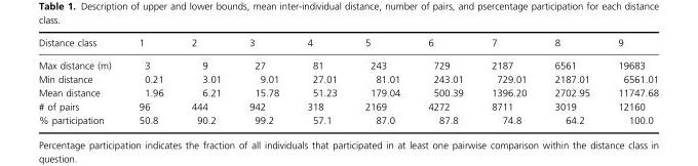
<table><thead><tr><td>Distance class</td><td>1</td><td>2</td><td>3</td><td>4</td><td>5</td><td>6</td><td>7</td><td>8</td><td>9</td></tr></thead><tbody><tr><td>Max distance (m)</td><td>3</td><td>9</td><td>27</td><td>81</td><td>243</td><td>729</td><td>2187</td><td>6561</td><td>19683</td></tr><tr><td>Min distance</td><td>0.21</td><td>3.01</td><td>9.01</td><td>27.01</td><td>81.01</td><td>243.01</td><td>729.01</td><td>2187.01</td><td>6561.01</td></tr><tr><td>Mean distance</td><td>1.96</td><td>6.21</td><td>15.78</td><td>51.23</td><td>179.04</td><td>500.39</td><td>1396.20</td><td>2702.95</td><td>11747.68</td></tr><tr><td># of pairs</td><td>96</td><td>444</td><td>942</td><td>318</td><td>2169</td><td>4272</td><td>8711</td><td>3019</td><td>12160</td></tr><tr><td>% participation</td><td>50.8</td><td>90.2</td><td>99.2</td><td>57.1</td><td>87.0</td><td>87.8</td><td>74.8</td><td>64.2</td><td>100.0</td></tr></tbody></table>